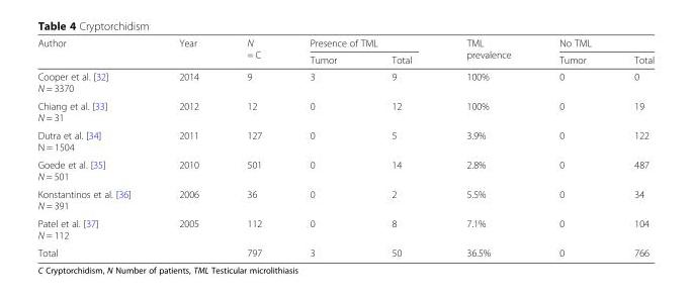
<table><thead><tr><td rowspan="2">Author</td><td rowspan="2">Year</td><td rowspan="2">N = C</td><td colspan="2">Presence of TML</td><td rowspan="2">TML prevalence</td><td colspan="2">No TML</td></tr><tr><td>Tumor</td><td>Total</td><td>Tumor</td><td>Total</td></tr></thead><tbody><tr><td>Cooper et al. [32] N = 3370</td><td>2014</td><td>9</td><td>3</td><td>9</td><td>100%</td><td>0</td><td>0</td></tr><tr><td>Chiang et al. [33] N = 31</td><td>2012</td><td>12</td><td>0</td><td>12</td><td>100%</td><td>0</td><td>19</td></tr><tr><td>Dutra et al. [34] N = 1504</td><td>2011</td><td>127</td><td>0</td><td>5</td><td>3.9%</td><td>0</td><td>122</td></tr><tr><td>Goede et al. [35] N = 501</td><td>2010</td><td>501</td><td>0</td><td>14</td><td>2.8%</td><td>0</td><td>487</td></tr><tr><td>Konstantinos et al. [36] N = 391</td><td>2006</td><td>36</td><td>0</td><td>2</td><td>5.5%</td><td>0</td><td>34</td></tr><tr><td>Patel et al. [37] N = 112</td><td>2005</td><td>112</td><td>0</td><td>8</td><td>7.1%</td><td>0</td><td>104</td></tr><tr><td>Total</td><td></td><td>797</td><td>3</td><td>50</td><td>36.5%</td><td>0</td><td>766</td></tr></tbody></table>